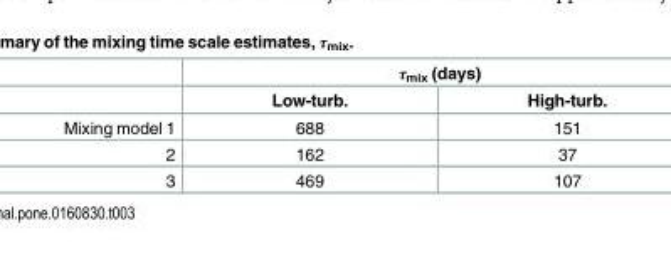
<table><thead><tr><td rowspan="2"></td><td colspan="2">τ<sub>mix</sub> (days)</td></tr><tr><td>Low-turb.</td><td>High-turb.</td></tr></thead><tbody><tr><td>Mixing model 1</td><td>688</td><td>151</td></tr><tr><td>2</td><td>162</td><td>37</td></tr><tr><td>3</td><td>469</td><td>107</td></tr></tbody></table>